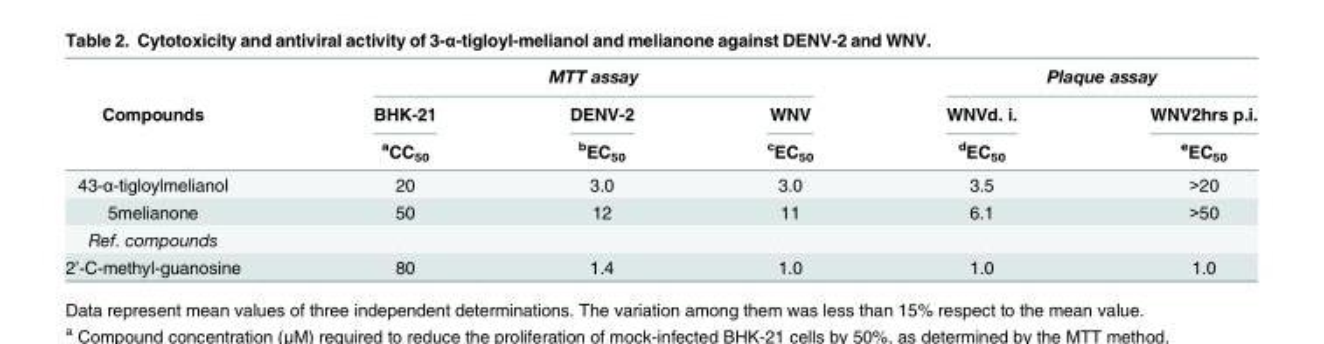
<table><thead><tr><td rowspan="3">Compounds</td><td colspan="3">MTT assay</td><td colspan="2">Plaque assay</td></tr><tr><td rowspan="2">BHK-21 <sup>a</sup>CC<sub>50</sub></td><td rowspan="2">DENV-2 <sup>b</sup>EC<sub>50</sub></td><td rowspan="2">WNV <sup>c</sup>EC<sub>50</sub></td><td rowspan="2">WNVd. i. <sup>d</sup>EC<sub>50</sub></td><td rowspan="2">WNV2hrs p.i. <sup>e</sup>EC<sub>50</sub></td></tr><tr></tr></thead><tbody><tr><td>43-α-tigloylmelianol</td><td>20</td><td>3.0</td><td>3.0</td><td>3.5</td><td>&gt;20</td></tr><tr><td>5melianone</td><td>50</td><td>12</td><td>11</td><td>6.1</td><td>&gt;50</td></tr><tr><td colspan="6">Ref. compounds</td></tr><tr><td>2’-C-methyl-guanosine</td><td>80</td><td>1.4</td><td>1.0</td><td>1.0</td><td>1.0</td></tr></tbody></table>